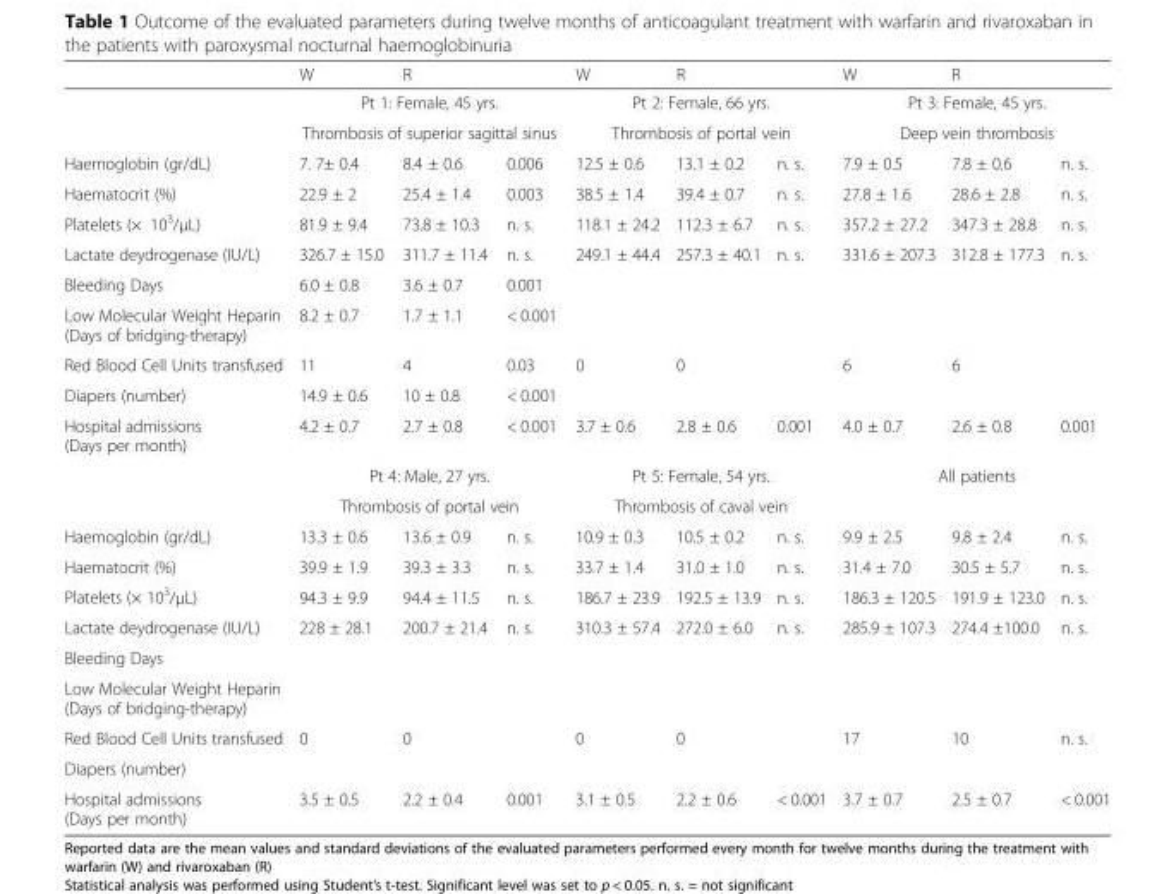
<table><thead><tr><td rowspan="4">Haemoglobin (gr/dL)</td><td>W</td><td colspan="2">R</td><td>W</td><td colspan="2">R</td><td>W</td><td colspan="2">R</td></tr><tr><td rowspan="2" colspan="3">Pt 1: Female, 45 yrs. Thrombosis of superior sagittal sinus</td><td rowspan="2" colspan="3">Pt 2: Female, 66 yrs. Thrombosis of portal vein</td><td rowspan="2" colspan="3">Pt 3: Female, 45 yrs. Deep vein thrombosis</td></tr><tr></tr><tr><td>7. 7± 0.4</td><td>8.4 ± 0.6</td><td>0.006</td><td>12.5 ± 0.6</td><td>13.1 ± 0.2</td><td>n. s.</td><td>7.9 ± 0.5</td><td>7.8 ± 0.6</td><td>n. s.</td></tr></thead><tbody><tr><td>Haematocrit (%)</td><td>22.9 ± 2</td><td>25.4 ± 1.4</td><td>0.003</td><td>38.5 ± 1.4</td><td>39.4 ± 0.7</td><td>n. s.</td><td>27.8 ± 1.6</td><td>28.6 ± 2.8</td><td>n. s.</td></tr><tr><td>Platelets (× 10<sup>3</sup>/μL)</td><td>81.9 ± 9.4</td><td>73.8 ± 10.3</td><td>n. s.</td><td>118.1 ± 24.2</td><td>112.3 ± 6.7</td><td>n. s.</td><td>357.2 ± 27.2</td><td>347.3 ± 28.8</td><td>n. s.</td></tr><tr><td>Lactate deydrogenase (IU/L)</td><td>326.7 ± 15.0</td><td>311.7 ± 11.4</td><td>n. s.</td><td>249.1 ± 44.4</td><td>257.3 ± 40.1</td><td>n. s.</td><td>331.6 ± 207.3</td><td>312.8 ± 177.3</td><td>n. s.</td></tr><tr><td>Bleeding Days</td><td>6.0 ± 0.8</td><td>3.6 ± 0.7</td><td>0.001</td><td></td><td></td><td></td><td></td><td></td><td></td></tr><tr><td>Low Molecular Weight Heparin (Days of bridging-therapy)</td><td>8.2 ± 0.7</td><td>1.7 ± 1.1</td><td>&lt; 0.001</td><td></td><td></td><td></td><td></td><td></td><td></td></tr><tr><td>Red Blood Cell Units transfused</td><td>11</td><td>4</td><td>0.03</td><td>0</td><td>0</td><td></td><td>6</td><td>6</td><td></td></tr><tr><td>Diapers (number)</td><td>14.9 ± 0.6</td><td>10 ± 0.8</td><td>&lt; 0.001</td><td></td><td></td><td></td><td></td><td></td><td></td></tr><tr><td rowspan="3">Hospital admissions (Days per month)</td><td>4.2 ± 0.7</td><td>2.7 ± 0.8</td><td>&lt; 0.001</td><td>3.7 ± 0.6</td><td>2.8 ± 0.6</td><td>0.001</td><td>4.0 ± 0.7</td><td>2.6 ± 0.8</td><td>0.001</td></tr><tr><td colspan="3">Pt 4: Male, 27 yrs.</td><td colspan="3">Pt 5: Female, 54 yrs.</td><td rowspan="2" colspan="3">All patients</td></tr><tr><td colspan="3">Thrombosis of portal vein</td><td colspan="3">Thrombosis of caval vein</td></tr><tr><td>Haemoglobin (gr/dL)</td><td>13.3 ± 0.6</td><td>13.6 ± 0.9</td><td>n. s.</td><td>10.9 ± 0.3</td><td>10.5 ± 0.2</td><td>n. s.</td><td>9.9 ± 2.5</td><td>9.8 ± 2.4</td><td>n. s.</td></tr><tr><td>Haematocrit (%)</td><td>39.9 ± 1.9</td><td>39.3 ± 3.3</td><td>n. s.</td><td>33.7 ± 1.4</td><td>31.0 ± 1.0</td><td>n. s.</td><td>31.4 ± 7.0</td><td>30.5 ± 5.7</td><td>n. s.</td></tr><tr><td>Platelets (× 10<sup>3</sup>/μL)</td><td>94.3 ± 9.9</td><td>94.4 ± 11.5</td><td>n. s.</td><td>186.7 ± 23.9</td><td>192.5 ± 13.9</td><td>n. s.</td><td>186.3 ± 120.5</td><td>191.9 ± 123.0</td><td>n. s.</td></tr><tr><td>Lactate deydrogenase (IU/L)</td><td>228 ± 28.1</td><td>200.7 ± 21.4</td><td>n. s.</td><td>310.3 ± 57.4</td><td>272.0 ± 6.0</td><td>n. s.</td><td>285.9 ± 107.3</td><td>274.4 ±100.0</td><td>n. s.</td></tr><tr><td colspan="10">Bleeding Days</td></tr><tr><td colspan="10">Low Molecular Weight Heparin (Days of bridging-therapy)</td></tr><tr><td>Red Blood Cell Units transfused</td><td>0</td><td>0</td><td></td><td>0</td><td>0</td><td></td><td>17</td><td>10</td><td>n. s.</td></tr><tr><td colspan="10">Diapers (number)</td></tr><tr><td>Hospital admissions (Days per month)</td><td>3.5 ± 0.5</td><td>2.2 ± 0.4</td><td>0.001</td><td>3.1 ± 0.5</td><td>2.2 ± 0.6</td><td>&lt; 0.001</td><td>3.7 ± 0.7</td><td>2.5 ± 0.7</td><td>&lt; 0.001</td></tr></tbody></table>